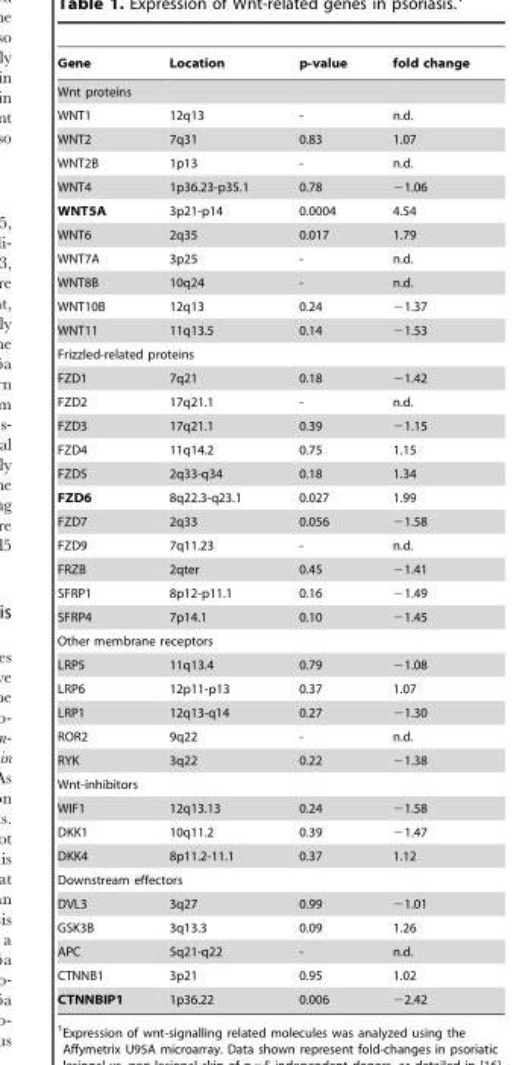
<table><thead><tr><td>Gene</td><td>Location</td><td>p-value</td><td>fold change</td></tr></thead><tbody><tr><td colspan="4">Wnt proteins</td></tr><tr><td>WNT1</td><td>12q13</td><td>-</td><td>n.d.</td></tr><tr><td>WNT2</td><td>7q31</td><td>0.83</td><td>1.07</td></tr><tr><td>WNT2B</td><td>1p13</td><td>-</td><td>n.d.</td></tr><tr><td>WNT4</td><td>1p36.23-p35.1</td><td>0.78</td><td>−1.06</td></tr><tr><td>WNT5A</td><td>3p21-p14</td><td>0.0004</td><td>4.54</td></tr><tr><td>WNT6</td><td>2q35</td><td>0.017</td><td>1.79</td></tr><tr><td>WNT7A</td><td>3p25</td><td>-</td><td>n.d.</td></tr><tr><td>WNT8B</td><td>10q24</td><td>-</td><td>n.d.</td></tr><tr><td>WNT10B</td><td>12q13</td><td>0.24</td><td>−1.37</td></tr><tr><td>WNT11</td><td>11q13.5</td><td>0.14</td><td>−1.53</td></tr><tr><td colspan="4">Frizzled-related proteins</td></tr><tr><td>FZD1</td><td>7q21</td><td>0.18</td><td>−1.42</td></tr><tr><td>FZD2</td><td>17q21.1</td><td>-</td><td>n.d.</td></tr><tr><td>FZD3</td><td>17q21.1</td><td>0.39</td><td>−1.15</td></tr><tr><td>FZD4</td><td>11q14.2</td><td>0.75</td><td>1.15</td></tr><tr><td>FZD5</td><td>2q33-q34</td><td>0.18</td><td>1.34</td></tr><tr><td>FZD6</td><td>8q22.3-q23.1</td><td>0.027</td><td>1.99</td></tr><tr><td>FZD7</td><td>2q33</td><td>0.056</td><td>−1.58</td></tr><tr><td>FZD9</td><td>7q11.23</td><td>-</td><td>n.d.</td></tr><tr><td>FRZB</td><td>2qter</td><td>0.45</td><td>−1.41</td></tr><tr><td>SFRP1</td><td>8p12-p11.1</td><td>0.16</td><td>−1.49</td></tr><tr><td>SFRP4</td><td>7p14.1</td><td>0.10</td><td>−1.45</td></tr><tr><td colspan="4">Other membrane receptors</td></tr><tr><td>LRP5</td><td>11q13.4</td><td>0.79</td><td>−1.08</td></tr><tr><td>LRP6</td><td>12p11-p13</td><td>0.37</td><td>1.07</td></tr><tr><td>LRP1</td><td>12q13-q14</td><td>0.27</td><td>−1.30</td></tr><tr><td>ROR2</td><td>9q22</td><td>-</td><td>n.d.</td></tr><tr><td>RYK</td><td>3q22</td><td>0.22</td><td>−1.38</td></tr><tr><td colspan="4">Wnt-inhibitors</td></tr><tr><td>WIF1</td><td>12q13.13</td><td>0.24</td><td>−1.58</td></tr><tr><td>DKK1</td><td>10q11.2</td><td>0.39</td><td>−1.47</td></tr><tr><td>DKK4</td><td>8p11.2-11.1</td><td>0.37</td><td>1.12</td></tr><tr><td colspan="4">Downstream effectors</td></tr><tr><td>DVL3</td><td>3q27</td><td>0.99</td><td>−1.01</td></tr><tr><td>GSK3B</td><td>3q13.3</td><td>0.09</td><td>1.26</td></tr><tr><td>APC</td><td>5q21-q22</td><td>-</td><td>n.d.</td></tr><tr><td>CTNNB1</td><td>3p21</td><td>0.95</td><td>1.02</td></tr><tr><td>CTNNBIP1</td><td>1p36.22</td><td>0.006</td><td>−2.42</td></tr></tbody></table>